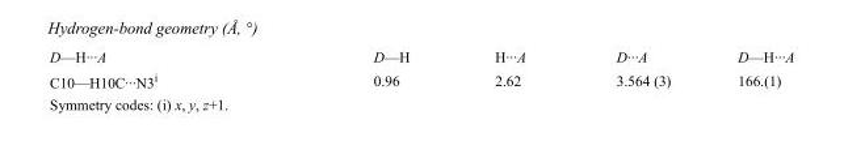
<table><tbody><tr><td>D—H···A</td><td>D—H</td><td>H···A</td><td>D···A</td><td>D—H···A</td></tr><tr><td>C10—H10C···N3<sup>i</sup></td><td>0.96</td><td>2.62</td><td>3.564 (3)</td><td>166.(1)</td></tr></tbody></table>